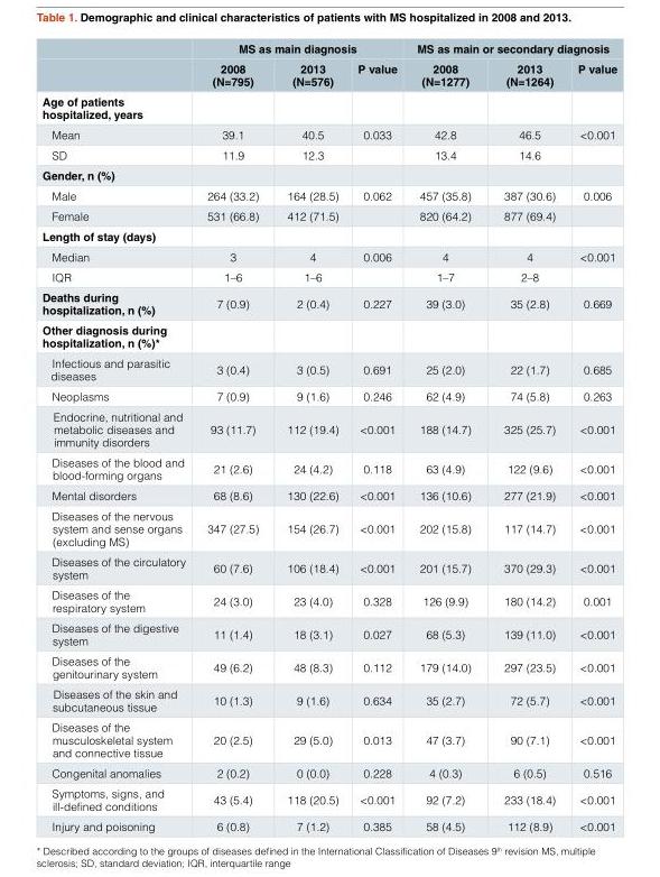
<table><thead><tr><td rowspan="2"></td><td colspan="3">MS as main diagnosis</td><td colspan="3">MS as main or secondary diagnosis</td></tr><tr><td>2008 (N=795)</td><td>2013 (N=576)</td><td>P value</td><td>2008 (N=1277)</td><td>2013 (N=1264)</td><td>P value</td></tr></thead><tbody><tr><td colspan="7">Age of patients hospitalized, years</td></tr><tr><td>Mean</td><td>39.1</td><td>40.5</td><td>0.033</td><td>42.8</td><td>46.5</td><td>&lt;0.001</td></tr><tr><td>SD</td><td>11.9</td><td>12.3</td><td></td><td>13.4</td><td>14.6</td><td></td></tr><tr><td colspan="7">Gender, n (%)</td></tr><tr><td>Male</td><td>264 (33.2)</td><td>164 (28.5)</td><td>0.062</td><td>457 (35.8)</td><td>387 (30.6)</td><td>0.006</td></tr><tr><td>Female</td><td>531 (66.8)</td><td>412 (71.5)</td><td></td><td>820 (64.2)</td><td>877 (69.4)</td><td></td></tr><tr><td colspan="7">Length of stay (days)</td></tr><tr><td>Median</td><td>3</td><td>4</td><td>0.006</td><td>4</td><td>4</td><td>&lt;0.001</td></tr><tr><td>IQR</td><td>1–6</td><td>1–6</td><td></td><td>1–7</td><td>2–8</td><td></td></tr><tr><td>Deaths during hospitalization, n (%)</td><td>7 (0.9)</td><td>2 (0.4)</td><td>0.227</td><td>39 (3.0)</td><td>35 (2.8)</td><td>0.669</td></tr><tr><td colspan="7">Other diagnosis during hospitalization, n (%)*</td></tr><tr><td>Infectious and parasitic diseases</td><td>3 (0.4)</td><td>3 (0.5)</td><td>0.691</td><td>25 (2.0)</td><td>22 (1.7)</td><td>0.685</td></tr><tr><td>Neoplasms</td><td>7 (0.9)</td><td>9 (1.6)</td><td>0.246</td><td>62 (4.9)</td><td>74 (5.8)</td><td>0.263</td></tr><tr><td>Endocrine, nutritional and metabolic diseases and immunity disorders</td><td>93 (11.7)</td><td>112 (19.4)</td><td>&lt;0.001</td><td>188 (14.7)</td><td>325 (25.7)</td><td>&lt;0.001</td></tr><tr><td>Diseases of the blood and blood-forming organs</td><td>21 (2.6)</td><td>24 (4.2)</td><td>0.118</td><td>63 (4.9)</td><td>122 (9.6)</td><td>&lt;0.001</td></tr><tr><td>Mental disorders</td><td>68 (8.6)</td><td>130 (22.6)</td><td>&lt;0.001</td><td>136 (10.6)</td><td>277 (21.9)</td><td>&lt;0.001</td></tr><tr><td>Diseases of the nervous system and sense organs (excluding MS)</td><td>347 (27.5)</td><td>154 (26.7)</td><td>&lt;0.001</td><td>202 (15.8)</td><td>117 (14.7)</td><td>&lt;0.001</td></tr><tr><td>Diseases of the circulatory system</td><td>60 (7.6)</td><td>106 (18.4)</td><td>&lt;0.001</td><td>201 (15.7)</td><td>370 (29.3)</td><td>&lt;0.001</td></tr><tr><td>Diseases of the respiratory system</td><td>24 (3.0)</td><td>23 (4.0)</td><td>0.328</td><td>126 (9.9)</td><td>180 (14.2)</td><td>0.001</td></tr><tr><td>Diseases of the digestive system</td><td>11 (1.4)</td><td>18 (3.1)</td><td>0.027</td><td>68 (5.3)</td><td>139 (11.0)</td><td>&lt;0.001</td></tr><tr><td>Diseases of the genitourinary system</td><td>49 (6.2)</td><td>48 (8.3)</td><td>0.112</td><td>179 (14.0)</td><td>297 (23.5)</td><td>&lt;0.001</td></tr><tr><td>Diseases of the skin and subcutaneous tissue</td><td>10 (1.3)</td><td>9 (1.6)</td><td>0.634</td><td>35 (2.7)</td><td>72 (5.7)</td><td>&lt;0.001</td></tr><tr><td>Diseases of the musculoskeletal system and connective tissue</td><td>20 (2.5)</td><td>29 (5.0)</td><td>0.013</td><td>47 (3.7)</td><td>90 (7.1)</td><td>&lt;0.001</td></tr><tr><td>Congenital anomalies</td><td>2 (0.2)</td><td>0 (0.0)</td><td>0.228</td><td>4 (0.3)</td><td>6 (0.5)</td><td>0.516</td></tr><tr><td>Symptoms, signs, and ill-defined conditions</td><td>43 (5.4)</td><td>118 (20.5)</td><td>&lt;0.001</td><td>92 (7.2)</td><td>233 (18.4)</td><td>&lt;0.001</td></tr><tr><td>Injury and poisoning</td><td>6 (0.8)</td><td>7 (1.2)</td><td>0.385</td><td>58 (4.5)</td><td>112 (8.9)</td><td>&lt;0.001</td></tr></tbody></table>